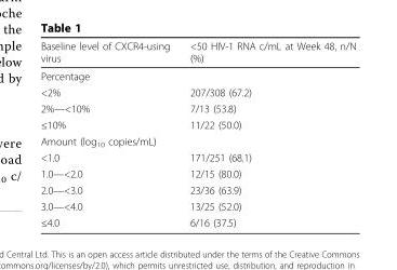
<table><thead><tr><td>Baseline level of CXCR4-using virus</td><td>&lt;50 HIV-1 RNA c/mL at Week 48, n/N (%)</td></tr></thead><tbody><tr><td colspan="2">Percentage</td></tr><tr><td>&lt;2%</td><td>207/308 (67.2)</td></tr><tr><td>2%—&lt;10%</td><td>7/13 (53.8)</td></tr><tr><td>≤10%</td><td>11/22 (50.0)</td></tr><tr><td colspan="2">Amount (log10 copies/mL)</td></tr><tr><td>&lt;1.0</td><td>171/251 (68.1)</td></tr><tr><td>1.0—&lt;2.0</td><td>12/15 (80.0)</td></tr><tr><td>2.0—&lt;3.0</td><td>23/36 (63.9)</td></tr><tr><td>3.0—&lt;4.0</td><td>13/25 (52.0)</td></tr><tr><td>≤4.0</td><td>6/16 (37.5)</td></tr></tbody></table>